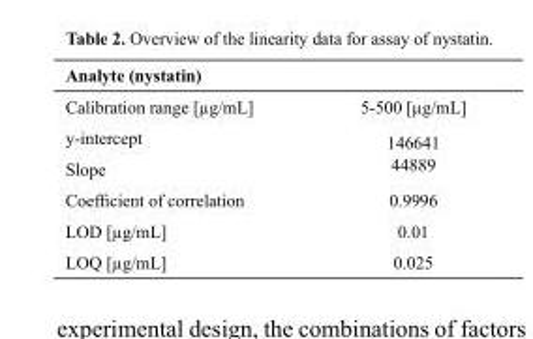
<table><thead><tr><td colspan="2">Analyte (nystatin)</td></tr><tr><td>Calibration range [µg/mL]</td><td>5-500 [µg/mL]</td></tr></thead><tbody><tr><td>y-intercept</td><td rowspan="2">146641 44889</td></tr><tr><td>Slope</td></tr><tr><td>Coefficient of correlation</td><td>0.9996</td></tr><tr><td>LOD [µg/mL]</td><td>0.01</td></tr><tr><td>LOQ [µg/mL]</td><td>0.025</td></tr></tbody></table>